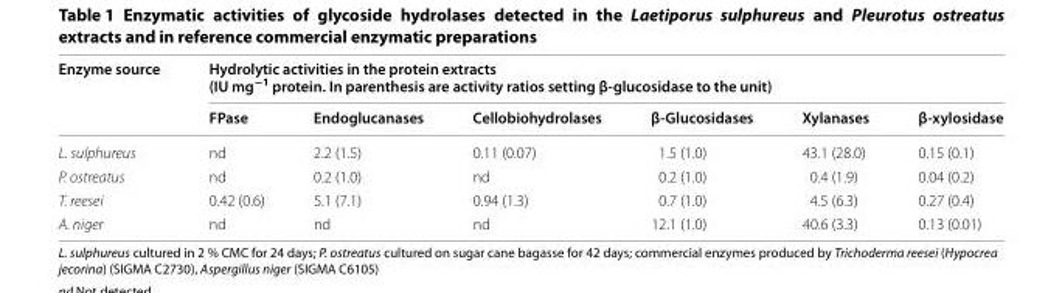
<table><thead><tr><td rowspan="2">Enzyme source</td><td colspan="6">Hydrolytic activities in the protein extracts (IU mg<sup>−1</sup> protein. In parenthesis are activity ratios setting β-glucosidase to the unit)</td></tr><tr><td>FPase</td><td>Endoglucanases</td><td>Cellobiohydrolases</td><td>β-Glucosidases</td><td>Xylanases</td><td>β-xylosidase</td></tr></thead><tbody><tr><td>L. sulphureus</td><td>nd</td><td>2.2 (1.5)</td><td>0.11 (0.07)</td><td>1.5 (1.0)</td><td>43.1 (28.0)</td><td>0.15 (0.1)</td></tr><tr><td>P. ostreatus</td><td>nd</td><td>0.2 (1.0)</td><td>nd</td><td>0.2 (1.0)</td><td>0.4 (1.9)</td><td>0.04 (0.2)</td></tr><tr><td>T. reesei</td><td>0.42 (0.6)</td><td>5.1 (7.1)</td><td>0.94 (1.3)</td><td>0.7 (1.0)</td><td>4.5 (6.3)</td><td>0.27 (0.4)</td></tr><tr><td>A. niger</td><td>nd</td><td>nd</td><td>nd</td><td>12.1 (1.0)</td><td>40.6 (3.3)</td><td>0.13 (0.01)</td></tr></tbody></table>